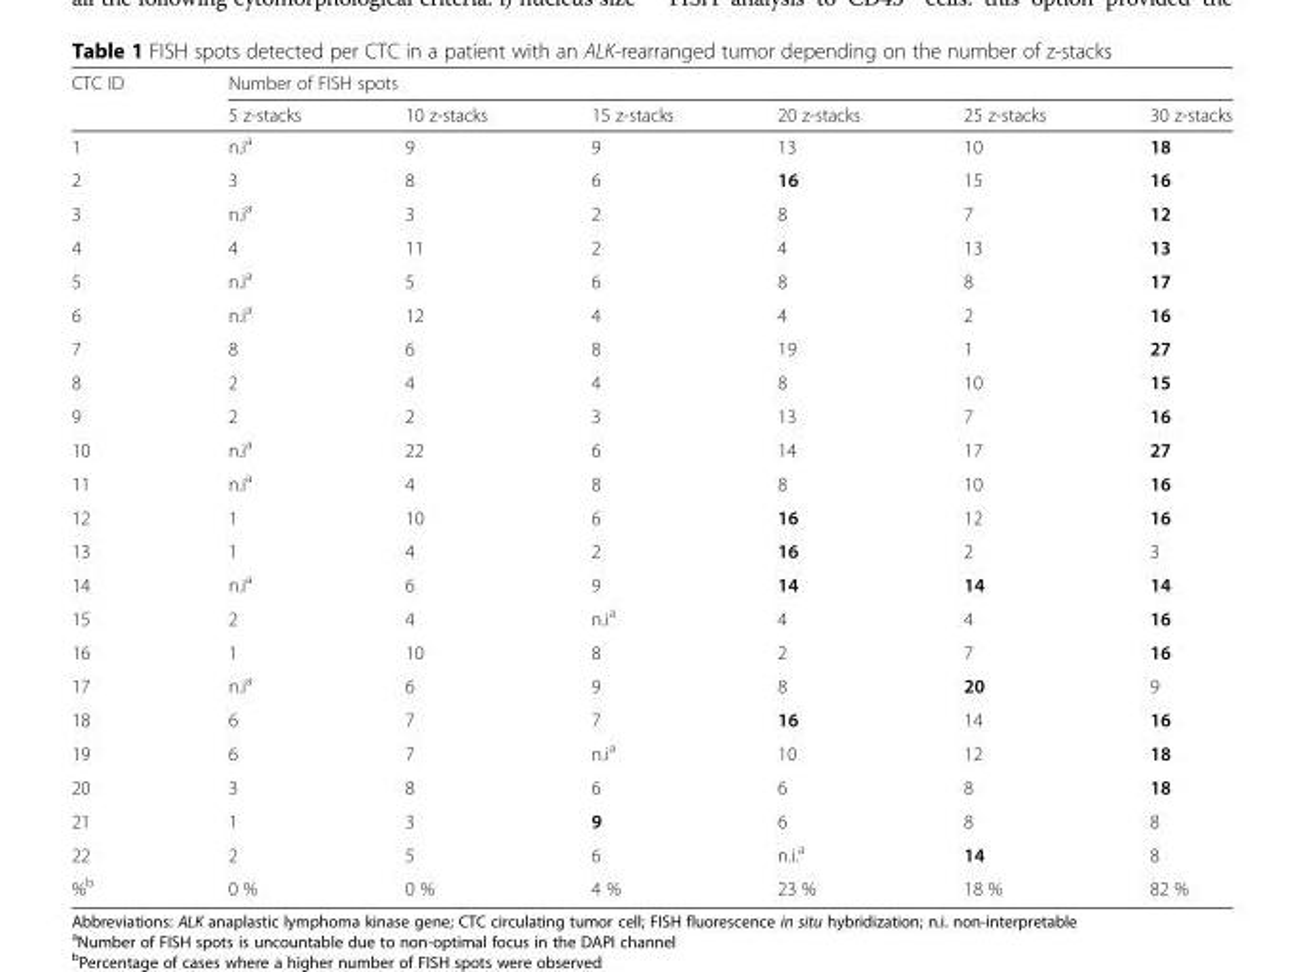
<table><thead><tr><td rowspan="2">CTC ID</td><td colspan="6">Number of FISH spots</td></tr><tr><td>5 z-stacks</td><td>10 z-stacks</td><td>15 z-stacks</td><td>20 z-stacks</td><td>25 z-stacks</td><td>30 z-stacks</td></tr></thead><tbody><tr><td>1</td><td>n.i<sup>a</sup></td><td>9</td><td>9</td><td>13</td><td>10</td><td>18</td></tr><tr><td>2</td><td>3</td><td>8</td><td>6</td><td>16</td><td>15</td><td>16</td></tr><tr><td>3</td><td>n.i<sup>a</sup></td><td>3</td><td>2</td><td>8</td><td>7</td><td>12</td></tr><tr><td>4</td><td>4</td><td>11</td><td>2</td><td>4</td><td>13</td><td>13</td></tr><tr><td>5</td><td>n.i<sup>a</sup></td><td>5</td><td>6</td><td>8</td><td>8</td><td>17</td></tr><tr><td>6</td><td>n.i<sup>a</sup></td><td>12</td><td>4</td><td>4</td><td>2</td><td>16</td></tr><tr><td>7</td><td>8</td><td>6</td><td>8</td><td>19</td><td>1</td><td>27</td></tr><tr><td>8</td><td>2</td><td>4</td><td>4</td><td>8</td><td>10</td><td>15</td></tr><tr><td>9</td><td>2</td><td>2</td><td>3</td><td>13</td><td>7</td><td>16</td></tr><tr><td>10</td><td>n.i<sup>a</sup></td><td>22</td><td>6</td><td>14</td><td>17</td><td>27</td></tr><tr><td>11</td><td>n.i<sup>a</sup></td><td>4</td><td>8</td><td>8</td><td>10</td><td>16</td></tr><tr><td>12</td><td>1</td><td>10</td><td>6</td><td>16</td><td>12</td><td>16</td></tr><tr><td>13</td><td>1</td><td>4</td><td>2</td><td>16</td><td>2</td><td>3</td></tr><tr><td>14</td><td>n.i<sup>a</sup></td><td>6</td><td>9</td><td>14</td><td>14</td><td>14</td></tr><tr><td>15</td><td>2</td><td>4</td><td>n.i<sup>a</sup></td><td>4</td><td>4</td><td>16</td></tr><tr><td>16</td><td>1</td><td>10</td><td>8</td><td>2</td><td>7</td><td>16</td></tr><tr><td>17</td><td>n.i<sup>a</sup></td><td>6</td><td>9</td><td>8</td><td>20</td><td>9</td></tr><tr><td>18</td><td>6</td><td>7</td><td>7</td><td>16</td><td>14</td><td>16</td></tr><tr><td>19</td><td>6</td><td>7</td><td>n.i<sup>a</sup></td><td>10</td><td>12</td><td>18</td></tr><tr><td>20</td><td>3</td><td>8</td><td>6</td><td>6</td><td>8</td><td>18</td></tr><tr><td>21</td><td>1</td><td>3</td><td>9</td><td>6</td><td>8</td><td>8</td></tr><tr><td>22</td><td>2</td><td>5</td><td>6</td><td>n.i.<sup>a</sup></td><td>14</td><td>8</td></tr><tr><td>%<sup>b</sup></td><td>0 %</td><td>0 %</td><td>4 %</td><td>23 %</td><td>18 %</td><td>82 %</td></tr></tbody></table>